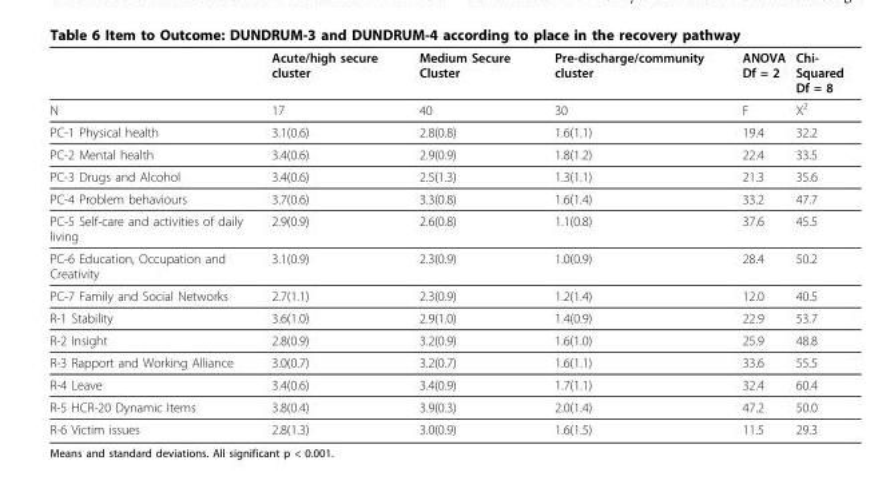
<table><thead><tr><td></td><td>Acute/high secure cluster</td><td>Medium Secure Cluster</td><td>Pre-discharge/community cluster</td><td>ANOVA Df = 2</td><td>Chi- Squared Df = 8</td></tr></thead><tbody><tr><td>N</td><td>17</td><td>40</td><td>30</td><td>F</td><td>X<sup>2</sup></td></tr><tr><td>PC-1 Physical health</td><td>3.1(0.6)</td><td>2.8(0.8)</td><td>1.6(1.1)</td><td>19.4</td><td>32.2</td></tr><tr><td>PC-2 Mental health</td><td>3.4(0.6)</td><td>2.9(0.9)</td><td>1.8(1.2)</td><td>22.4</td><td>33.5</td></tr><tr><td>PC-3 Drugs and Alcohol</td><td>3.4(0.6)</td><td>2.5(1.3)</td><td>1.3(1.1)</td><td>21.3</td><td>35.6</td></tr><tr><td>PC-4 Problem behaviours</td><td>3.7(0.6)</td><td>3.3(0.8)</td><td>1.6(1.4)</td><td>33.2</td><td>47.7</td></tr><tr><td>PC-5 Self-care and activities of daily living</td><td>2.9(0.9)</td><td>2.6(0.8)</td><td>1.1(0.8)</td><td>37.6</td><td>45.5</td></tr><tr><td>PC-6 Education, Occupation and Creativity</td><td>3.1(0.9)</td><td>2.3(0.9)</td><td>1.0(0.9)</td><td>28.4</td><td>50.2</td></tr><tr><td>PC-7 Family and Social Networks</td><td>2.7(1.1)</td><td>2.3(0.9)</td><td>1.2(1.4)</td><td>12.0</td><td>40.5</td></tr><tr><td>R-1 Stability</td><td>3.6(1.0)</td><td>2.9(1.0)</td><td>1.4(0.9)</td><td>22.9</td><td>53.7</td></tr><tr><td>R-2 Insight</td><td>2.8(0.9)</td><td>3.2(0.9)</td><td>1.6(1.0)</td><td>25.9</td><td>48.8</td></tr><tr><td>R-3 Rapport and Working Alliance</td><td>3.0(0.7)</td><td>3.2(0.7)</td><td>1.6(1.1)</td><td>33.6</td><td>55.5</td></tr><tr><td>R-4 Leave</td><td>3.4(0.6)</td><td>3.4(0.9)</td><td>1.7(1.1)</td><td>32.4</td><td>60.4</td></tr><tr><td>R-5 HCR-20 Dynamic Items</td><td>3.8(0.4)</td><td>3.9(0.3)</td><td>2.0(1.4)</td><td>47.2</td><td>50.0</td></tr><tr><td>R-6 Victim issues</td><td>2.8(1.3)</td><td>3.0(0.9)</td><td>1.6(1.5)</td><td>11.5</td><td>29.3</td></tr></tbody></table>